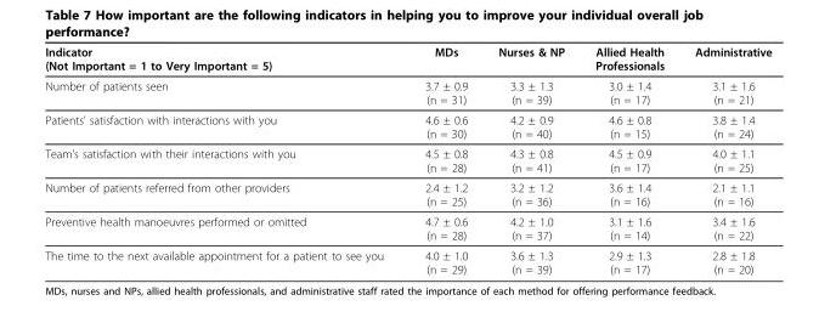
<table><thead><tr><td>Indicator (Not Important = 1 to Very Important = 5)</td><td>MDs</td><td>Nurses &amp; NP</td><td>Allied Health Professionals</td><td>Administrative</td></tr></thead><tbody><tr><td>Number of patients seen</td><td>3.7 ± 0.9 (n = 31)</td><td>3.3 ± 1.3 (n = 39)</td><td>3.0 ± 1.4 (n = 17)</td><td>3.1 ± 1.6 (n = 21)</td></tr><tr><td>Patients’ satisfaction with interactions with you</td><td>4.6 ± 0.6 (n = 30)</td><td>4.2 ± 0.9 (n = 40)</td><td>4.6 ± 0.8 (n = 15)</td><td>3.8 ± 1.4 (n = 24)</td></tr><tr><td>Team’s satisfaction with their interactions with you</td><td>4.5 ± 0.8 (n = 28)</td><td>4.3 ± 0.8 (n = 41)</td><td>4.5 ± 0.9 (n = 17)</td><td>4.0 ± 1.1 (n = 25)</td></tr><tr><td>Number of patients referred from other providers</td><td>2.4 ± 1.2 (n = 25)</td><td>3.2 ± 1.2 (n = 36)</td><td>3.6 ± 1.4 (n = 16)</td><td>2.1 ± 1.1 (n = 16)</td></tr><tr><td>Preventive health manoeuvres performed or omitted</td><td>4.7 ± 0.6 (n = 28)</td><td>4.2 ± 1.0 (n = 37)</td><td>3.1 ± 1.6 (n = 14)</td><td>3.4 ± 1.6 (n = 22)</td></tr><tr><td>The time to the next available appointment for a patient to see you</td><td>4.0 ± 1.0 (n = 29)</td><td>3.6 ± 1.3 (n = 39)</td><td>2.9 ± 1.3 (n = 17)</td><td>2.8 ± 1.8 (n = 20)</td></tr></tbody></table>